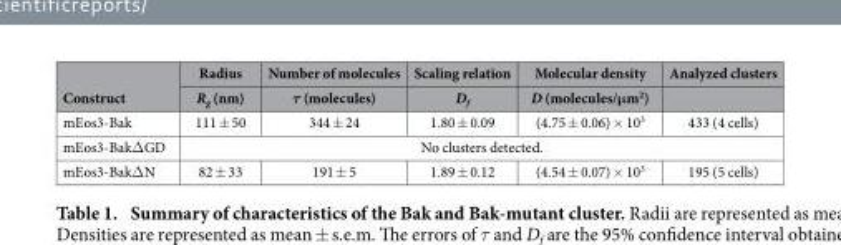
<table><thead><tr><td rowspan="2">Construct</td><td rowspan="2">Radius R<sub>g</sub> (nm)</td><td rowspan="2">Number of molecules τ (molecules)</td><td rowspan="2">Scaling relation D<sub>f</sub></td><td rowspan="2">Molecular density D (molecules/μm<sup>2</sup>)</td><td rowspan="2">Analyzed clusters</td></tr><tr></tr></thead><tbody><tr><td>mEos3-Bak</td><td>111 ± 50</td><td>344 ± 24</td><td>1.80 ± 0.09</td><td>(4.75 ± 0.06) × 10<sup>3</sup></td><td>433 (4 cells)</td></tr><tr><td>mEos3-BakΔ GD</td><td colspan="5">No clusters detected.</td></tr><tr><td>mEos3-BakΔ N</td><td>82 ± 33</td><td>191 ± 5</td><td>1.89 ± 0.12</td><td>(4.54 ± 0.07) × 10<sup>3</sup></td><td>195 (5 cells)</td></tr></tbody></table>